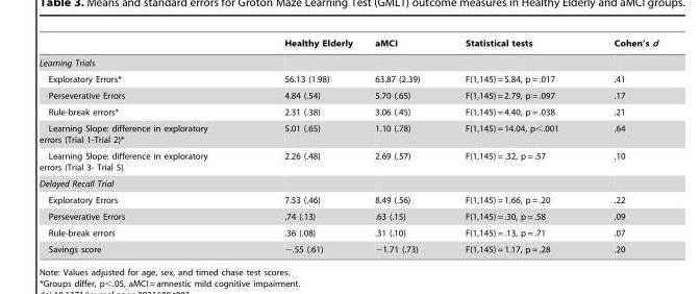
<table><thead><tr><td></td><td>Healthy Elderly</td><td>aMCI</td><td>Statistical tests</td><td>Cohen’s d</td></tr></thead><tbody><tr><td colspan="5">Learning Trials</td></tr><tr><td>Exploratory Errors*</td><td>56.13 (1.98)</td><td>63.87 (2.39)</td><td>F(1,145) = 5.84, p = .017</td><td>.41</td></tr><tr><td>Perseverative Errors</td><td>4.84 (.54)</td><td>5.70 (.65)</td><td>F(1,145) = 2.79, p = .097</td><td>.17</td></tr><tr><td>Rule-break errors*</td><td>2.31 (.38)</td><td>3.06 (.45)</td><td>F(1,145) = 4.40, p = .038</td><td>.21</td></tr><tr><td>Learning Slope: difference in exploratory errors (Trial 1-Trial 2)*</td><td>5.01 (.65)</td><td>1.10 (.78)</td><td>F(1,145) = 14.04, p&lt;.001</td><td>.64</td></tr><tr><td>Learning Slope: difference in exploratory errors (Trial 3- Trial 5)</td><td>2.26 (.48)</td><td>2.69 (.57)</td><td>F(1,145) = .32, p = .57</td><td>.10</td></tr><tr><td colspan="5">Delayed Recall Trial</td></tr><tr><td>Exploratory Errors</td><td>7.53 (.46)</td><td>8.49 (.56)</td><td>F(1,145) = 1.66, p = .20</td><td>.22</td></tr><tr><td>Perseverative Errors</td><td>.74 (.13)</td><td>.63 (.15)</td><td>F(1,145) = .30, p = .58</td><td>.09</td></tr><tr><td>Rule-break errors</td><td>.36 (.08)</td><td>.31 (.10)</td><td>F(1,145) = .13, p = .71</td><td>.07</td></tr><tr><td>Savings score</td><td>−.55 (.61)</td><td>−1.71 (.73)</td><td>F(1,145) = 1.17, p = .28</td><td>.20</td></tr></tbody></table>